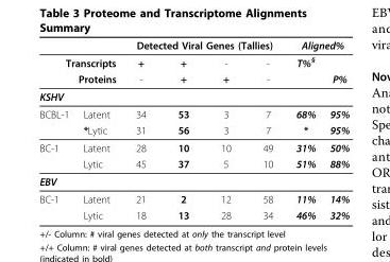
<table><thead><tr><td></td><td></td><td colspan="4">Detected Viral Genes (Tallies)</td><td colspan="2">Aligned%</td></tr><tr><td colspan="2">Transcripts</td><td>+</td><td>+</td><td>-</td><td>-</td><td>T%<sup>§</sup></td><td></td></tr></thead><tbody><tr><td colspan="2">Proteins</td><td>-</td><td>+</td><td>+</td><td>-</td><td></td><td>P%</td></tr><tr><td colspan="8">KSHV</td></tr><tr><td rowspan="2">BCBL-1</td><td>Latent</td><td>34</td><td>53</td><td>3</td><td>7</td><td>68%</td><td>95%</td></tr><tr><td>*Lytic</td><td>31</td><td>56</td><td>3</td><td>7</td><td>*</td><td>95%</td></tr><tr><td rowspan="2">BC-1</td><td>Latent</td><td>28</td><td>10</td><td>10</td><td>49</td><td>31%</td><td>50%</td></tr><tr><td>Lytic</td><td>45</td><td>37</td><td>5</td><td>10</td><td>51%</td><td>88%</td></tr><tr><td colspan="8">EBV</td></tr><tr><td rowspan="2">BC-1</td><td>Latent</td><td>21</td><td>2</td><td>12</td><td>58</td><td>11%</td><td>14%</td></tr><tr><td>Lytic</td><td>18</td><td>13</td><td>28</td><td>34</td><td>46%</td><td>32%</td></tr></tbody></table>